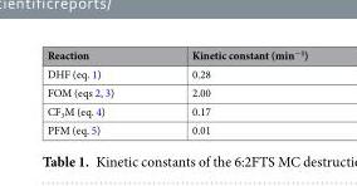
<table><thead><tr><td>Reaction</td><td>Kinetic constant (min<sup>−1</sup>)</td></tr></thead><tbody><tr><td>DHF (eq. 1)</td><td>0.28</td></tr><tr><td>FOM (eqs 2, 3)</td><td>2.00</td></tr><tr><td>CF<sub>3</sub>M (eq. 4)</td><td>0.17</td></tr><tr><td>PFM (eq. 5)</td><td>0.01</td></tr></tbody></table>